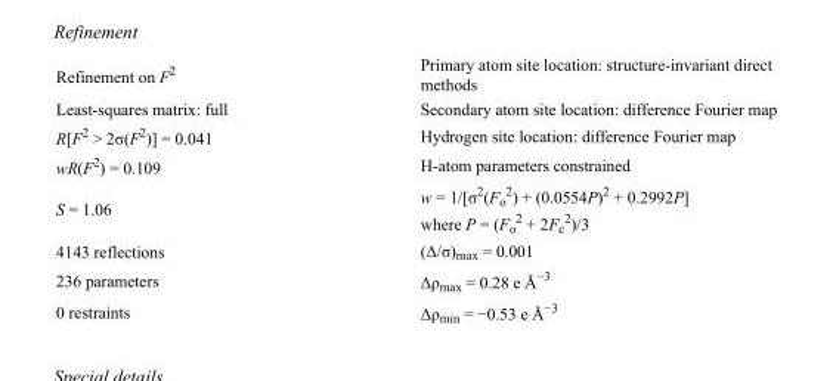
<table><tbody><tr><td>Refinement on F<sup>2</sup></td><td>Primary atom site location: structure-invariant direct methods</td></tr><tr><td>Least-squares matrix: full</td><td>Secondary atom site location: difference Fourier map</td></tr><tr><td>R[F<sup>2</sup> &gt; 2σ(F<sup>2</sup>)] = 0.041</td><td>Hydrogen site location: difference Fourier map</td></tr><tr><td>wR(F<sup>2</sup>) = 0.109</td><td>H-atom parameters constrained</td></tr><tr><td>S = 1.06</td><td>w = 1/[σ<sup>2</sup>(F<sub>o</sub> <sup>2</sup>) + (0.0554P)<sup>2</sup> + 0.2992P] where P = (F<sub>o</sub> <sup>2</sup> + 2F<sub>c</sub> <sup>2</sup>)/3</td></tr><tr><td>4143 reflections</td><td>(Δ/σ)<sub>max</sub> = 0.001</td></tr><tr><td>236 parameters</td><td>Δρ<sub>max</sub> = 0.28 e Å<sup>−3</sup></td></tr><tr><td>0 restraints</td><td>Δρ<sub>min</sub> = −0.53 e Å<sup>−3</sup></td></tr></tbody></table>